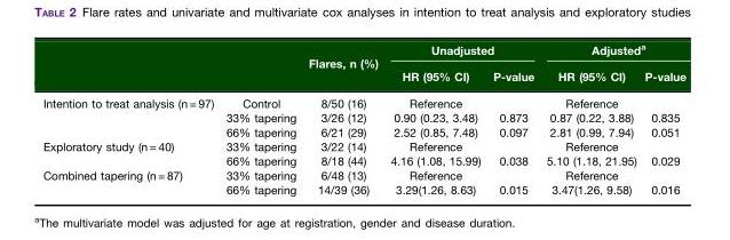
<table><thead><tr><td rowspan="2"></td><td rowspan="2"></td><td rowspan="2">Flares, n (%)</td><td colspan="2">Unadjusted</td><td colspan="2">Adjusted<sup>a</sup></td></tr><tr><td>HR (95% CI)</td><td>P-value</td><td>HR (95% CI)</td><td>P-value</td></tr></thead><tbody><tr><td rowspan="3">Intention to treat analysis (n = 97)</td><td>Control</td><td>8/50 (16)</td><td>Reference</td><td></td><td>Reference</td><td></td></tr><tr><td>33% tapering</td><td>3/26 (12)</td><td>0.90 (0.23, 3.48)</td><td>0.873</td><td>0.87 (0.22, 3.88)</td><td>0.835</td></tr><tr><td>66% tapering</td><td>6/21 (29)</td><td>2.52 (0.85, 7.48)</td><td>0.097</td><td>2.81 (0.99, 7.94)</td><td>0.051</td></tr><tr><td rowspan="2">Exploratory study (n = 40)</td><td>33% tapering</td><td>3/22 (14)</td><td>Reference</td><td></td><td>Reference</td><td></td></tr><tr><td>66% tapering</td><td>8/18 (44)</td><td>4.16 (1.08, 15.99)</td><td>0.038</td><td>5.10 (1.18, 21.95)</td><td>0.029</td></tr><tr><td rowspan="2">Combined tapering (n = 87)</td><td>33% tapering</td><td>6/48 (13)</td><td>Reference</td><td></td><td>Reference</td><td></td></tr><tr><td>66% tapering</td><td>14/39 (36)</td><td>3.29(1.26, 8.63)</td><td>0.015</td><td>3.47(1.26, 9.58)</td><td>0.016</td></tr></tbody></table>